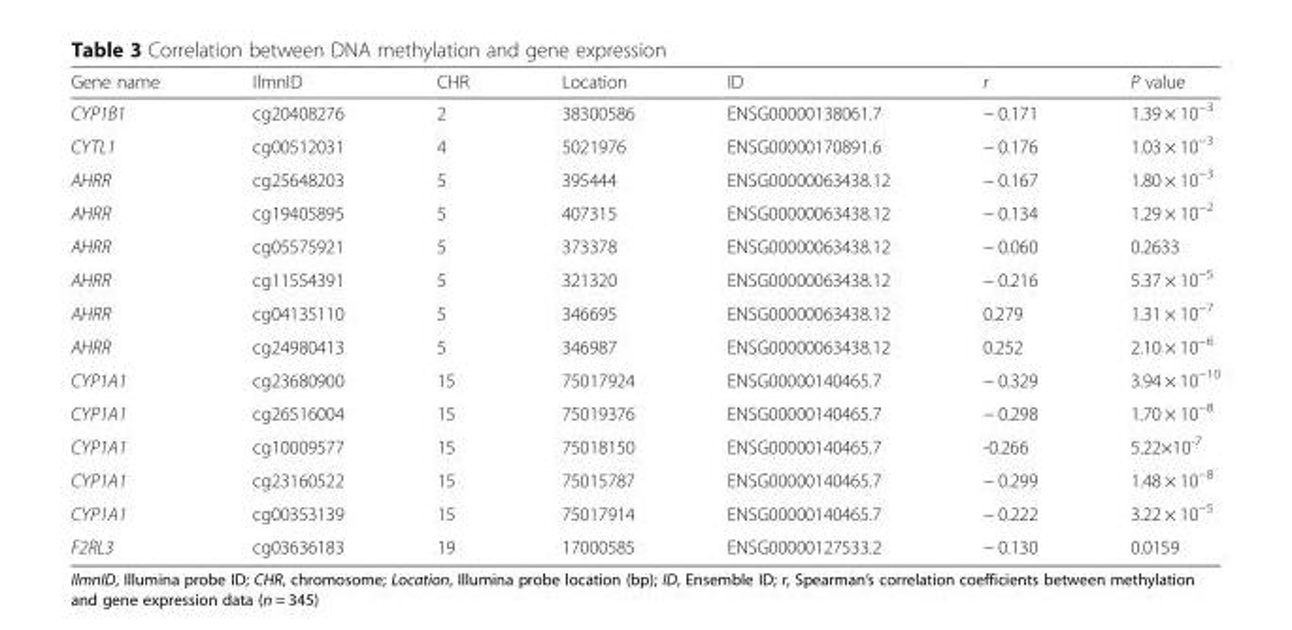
<table><thead><tr><td>Gene name</td><td>IlmnID</td><td>CHR</td><td>Location</td><td>ID</td><td>r</td><td>P value</td></tr></thead><tbody><tr><td>CYP1B1</td><td>cg20408276</td><td>2</td><td>38300586</td><td>ENSG00000138061.7</td><td>− 0.171</td><td>1.39 × 10<sup>−3</sup></td></tr><tr><td>CYTL1</td><td>cg00512031</td><td>4</td><td>5021976</td><td>ENSG00000170891.6</td><td>− 0.176</td><td>1.03 × 10<sup>−3</sup></td></tr><tr><td>AHRR</td><td>cg25648203</td><td>5</td><td>395444</td><td>ENSG00000063438.12</td><td>− 0.167</td><td>1.80 × 10<sup>−3</sup></td></tr><tr><td>AHRR</td><td>cg19405895</td><td>5</td><td>407315</td><td>ENSG00000063438.12</td><td>− 0.134</td><td>1.29 × 10<sup>−2</sup></td></tr><tr><td>AHRR</td><td>cg05575921</td><td>5</td><td>373378</td><td>ENSG00000063438.12</td><td>− 0.060</td><td>0.2633</td></tr><tr><td>AHRR</td><td>cg11554391</td><td>5</td><td>321320</td><td>ENSG00000063438.12</td><td>− 0.216</td><td>5.37 × 10<sup>−5</sup></td></tr><tr><td>AHRR</td><td>cg04135110</td><td>5</td><td>346695</td><td>ENSG00000063438.12</td><td>0.279</td><td>1.31 × 10<sup>−7</sup></td></tr><tr><td>AHRR</td><td>cg24980413</td><td>5</td><td>346987</td><td>ENSG00000063438.12</td><td>0.252</td><td>2.10 × 10<sup>−6</sup></td></tr><tr><td>CYP1A1</td><td>cg23680900</td><td>15</td><td>75017924</td><td>ENSG00000140465.7</td><td>− 0.329</td><td>3.94 × 10<sup>−10</sup></td></tr><tr><td>CYP1A1</td><td>cg26516004</td><td>15</td><td>75019376</td><td>ENSG00000140465.7</td><td>− 0.298</td><td>1.70 × 10<sup>−8</sup></td></tr><tr><td>CYP1A1</td><td>cg10009577</td><td>15</td><td>75018150</td><td>ENSG00000140465.7</td><td>-0.266</td><td>5.22×10<sup>-7</sup></td></tr><tr><td>CYP1A1</td><td>cg23160522</td><td>15</td><td>75015787</td><td>ENSG00000140465.7</td><td>− 0.299</td><td>1.48 × 10<sup>−8</sup></td></tr><tr><td>CYP1A1</td><td>cg00353139</td><td>15</td><td>75017914</td><td>ENSG00000140465.7</td><td>− 0.222</td><td>3.22 × 10<sup>−5</sup></td></tr><tr><td>F2RL3</td><td>cg03636183</td><td>19</td><td>17000585</td><td>ENSG00000127533.2</td><td>− 0.130</td><td>0.0159</td></tr></tbody></table>